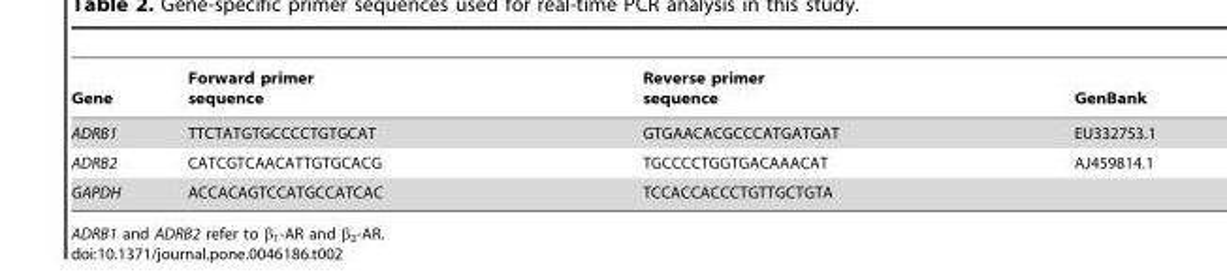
<table><thead><tr><td>Gene</td><td>Forward primer sequence</td><td>Reverse primer sequence</td><td>GenBank</td></tr></thead><tbody><tr><td>ADRB1</td><td>TTCTATGTGCCCCTGTGCAT</td><td>GTGAACACGCCCATGATGAT</td><td>EU332753.1</td></tr><tr><td>ADRB2</td><td>CATCGTCAACATTGTGCACG</td><td>TGCCCCTGGTGACAAACAT</td><td>AJ459814.1</td></tr><tr><td>GAPDH</td><td>ACCACAGTCCATGCCATCAC</td><td>TCCACCACCCTGTTGCTGTA</td><td></td></tr></tbody></table>